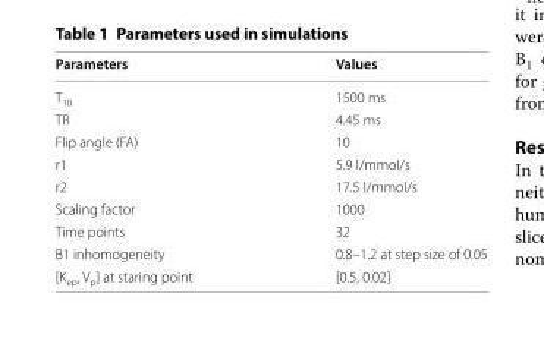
<table><thead><tr><td>Parameters</td><td>Values</td></tr></thead><tbody><tr><td>T<sub>10</sub></td><td>1500 ms</td></tr><tr><td>TR</td><td>4.45 ms</td></tr><tr><td>Flip angle (FA)</td><td>10</td></tr><tr><td>r1</td><td>5.9 l/mmol/s</td></tr><tr><td>r2</td><td>17.5 l/mmol/s</td></tr><tr><td>Scaling factor</td><td>1000</td></tr><tr><td>Time points</td><td>32</td></tr><tr><td>B1 inhomogeneity</td><td>0.8–1.2 at step size of 0.05</td></tr><tr><td>[K<sub>ep</sub>, V<sub>p</sub>] at staring point</td><td>[0.5, 0.02]</td></tr></tbody></table>